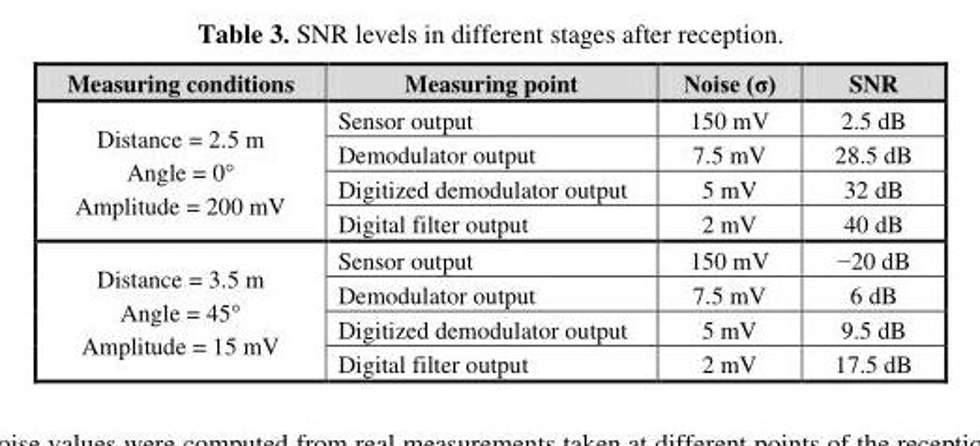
<table><thead><tr><td>Measuring conditions</td><td>Measuring point</td><td>Noise (σ)</td><td>SNR</td></tr></thead><tbody><tr><td rowspan="4">Distance = 2.5 m Angle = 0° Amplitude = 200 mV</td><td>Sensor output</td><td>150 mV</td><td>2.5 dB</td></tr><tr><td>Demodulator output</td><td>7.5 mV</td><td>28.5 dB</td></tr><tr><td>Digitized demodulator output</td><td>5 mV</td><td>32 dB</td></tr><tr><td>Digital filter output</td><td>2 mV</td><td>40 dB</td></tr><tr><td rowspan="4">Distance = 3.5 m Angle = 45° Amplitude = 15 mV</td><td>Sensor output</td><td>150 mV</td><td>−20 dB</td></tr><tr><td>Demodulator output</td><td>7.5 mV</td><td>6 dB</td></tr><tr><td>Digitized demodulator output</td><td>5 mV</td><td>9.5 dB</td></tr><tr><td>Digital filter output</td><td>2 mV</td><td>17.5 dB</td></tr></tbody></table>